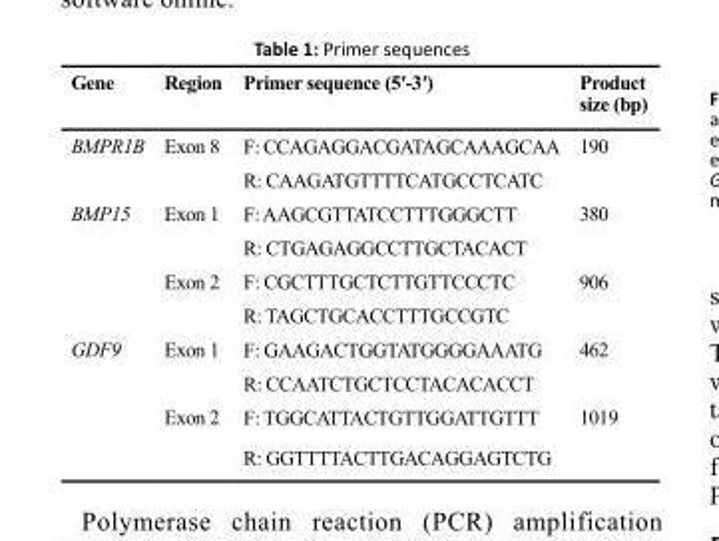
<table><thead><tr><td>Gene</td><td>Region</td><td>Primer sequence (5ʹ-3ʹ)</td><td>Product size (bp)</td></tr></thead><tbody><tr><td rowspan="2">BMPR1B</td><td rowspan="2">Exon 8</td><td>F: CCAGAGGACGATAGCAAAGCAA</td><td rowspan="2">190</td></tr><tr><td>R: CAAGATGTTTTCATGCCTCATC</td></tr><tr><td rowspan="4">BMP15</td><td rowspan="2">Exon 1</td><td>F: AAGCGTTATCCTTTGGGCTT</td><td rowspan="2">380</td></tr><tr><td>R: CTGAGAGGCCTTGCTACACT</td></tr><tr><td rowspan="2">Exon 2</td><td>F: CGCTTTGCTCTTGTTCCCTC</td><td rowspan="2">906</td></tr><tr><td>R: TAGCTGCACCTTTGCCGTC</td></tr><tr><td rowspan="4">GDF9</td><td rowspan="2">Exon 1</td><td>F: GAAGACTGGTATGGGGAAATG</td><td rowspan="2">462</td></tr><tr><td>R: CCAATCTGCTCCTACACACCT</td></tr><tr><td rowspan="2">Exon 2</td><td>F: TGGCATTACTGTTGGATTGTTT</td><td rowspan="2">1019</td></tr><tr><td>R: GGTTTTACTTGACAGGAGTCTG</td></tr></tbody></table>